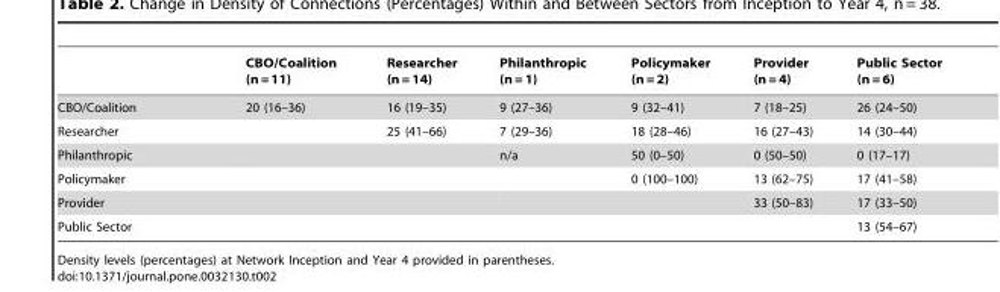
<table><thead><tr><td></td><td>CBO/Coalition (n = 11)</td><td>Researcher (n = 14)</td><td>Philanthropic (n = 1)</td><td>Policymaker (n = 2)</td><td>Provider (n = 4)</td><td>Public Sector (n = 6)</td></tr></thead><tbody><tr><td>CBO/Coalition</td><td>20 (16–36)</td><td>16 (19–35)</td><td>9 (27–36)</td><td>9 (32–41)</td><td>7 (18–25)</td><td>26 (24–50)</td></tr><tr><td>Researcher</td><td></td><td>25 (41–66)</td><td>7 (29–36)</td><td>18 (28–46)</td><td>16 (27–43)</td><td>14 (30–44)</td></tr><tr><td>Philanthropic</td><td></td><td></td><td>n/a</td><td>50 (0–50)</td><td>0 (50–50)</td><td>0 (17–17)</td></tr><tr><td>Policymaker</td><td></td><td></td><td></td><td>0 (100–100)</td><td>13 (62–75)</td><td>17 (41–58)</td></tr><tr><td>Provider</td><td></td><td></td><td></td><td></td><td>33 (50–83)</td><td>17 (33–50)</td></tr><tr><td>Public Sector</td><td></td><td></td><td></td><td></td><td></td><td>13 (54–67)</td></tr></tbody></table>